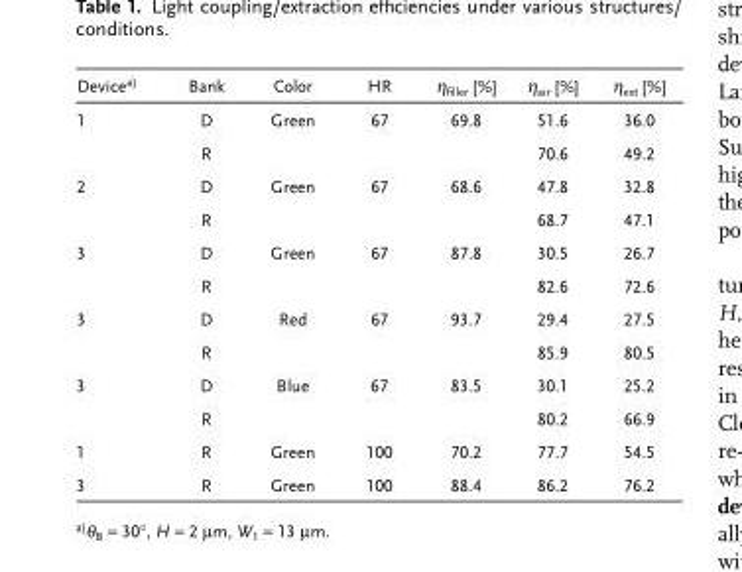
<table><thead><tr><td>Devicea)</td><td>Bank</td><td>Color</td><td>HR</td><td>η<sub>filler</sub> [%]</td><td>η<sub>air</sub> [%]</td><td>η<sub>ext</sub> [%]</td></tr></thead><tbody><tr><td rowspan="2">1</td><td>D</td><td>Green</td><td>67</td><td>69.8</td><td>51.6</td><td>36.0</td></tr><tr><td>R</td><td></td><td></td><td></td><td>70.6</td><td>49.2</td></tr><tr><td rowspan="2">2</td><td>D</td><td>Green</td><td>67</td><td>68.6</td><td>47.8</td><td>32.8</td></tr><tr><td>R</td><td></td><td></td><td></td><td>68.7</td><td>47.1</td></tr><tr><td rowspan="2">3</td><td>D</td><td>Green</td><td>67</td><td>87.8</td><td>30.5</td><td>26.7</td></tr><tr><td>R</td><td></td><td></td><td></td><td>82.6</td><td>72.6</td></tr><tr><td rowspan="2">3</td><td>D</td><td>Red</td><td>67</td><td>93.7</td><td>29.4</td><td>27.5</td></tr><tr><td>R</td><td></td><td></td><td></td><td>85.9</td><td>80.5</td></tr><tr><td rowspan="2">3</td><td>D</td><td>Blue</td><td>67</td><td>83.5</td><td>30.1</td><td>25.2</td></tr><tr><td>R</td><td></td><td></td><td></td><td>80.2</td><td>66.9</td></tr><tr><td>1</td><td>R</td><td>Green</td><td>100</td><td>70.2</td><td>77.7</td><td>54.5</td></tr><tr><td>3</td><td>R</td><td>Green</td><td>100</td><td>88.4</td><td>86.2</td><td>76.2</td></tr></tbody></table>